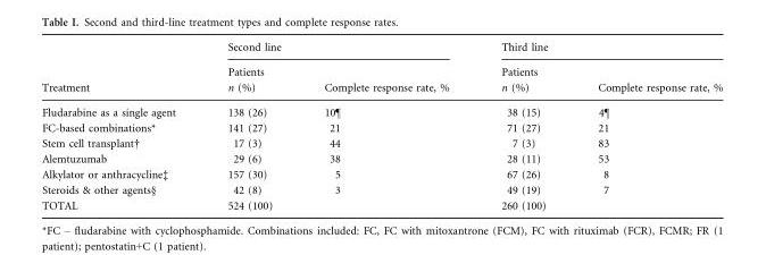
<table><thead><tr><td rowspan="2">Treatment</td><td colspan="2">Second line</td><td colspan="2">Third line</td></tr><tr><td>Patients n (%)</td><td>Complete response rate, %</td><td>Patients n (%)</td><td>Complete response rate, %</td></tr></thead><tbody><tr><td>Fludarabine as a single agent</td><td>138 (26)</td><td>10¶</td><td>38 (15)</td><td>4¶</td></tr><tr><td>FC-based combinations*</td><td>141 (27)</td><td>21</td><td>71 (27)</td><td>21</td></tr><tr><td>Stem cell transplant†</td><td>17 (3)</td><td>44</td><td>7 (3)</td><td>83</td></tr><tr><td>Alemtuzumab</td><td>29 (6)</td><td>38</td><td>28 (11)</td><td>53</td></tr><tr><td>Alkylator or anthracycline‡</td><td>157 (30)</td><td>5</td><td>67 (26)</td><td>8</td></tr><tr><td>Steroids &amp; other agents§</td><td>42 (8)</td><td>3</td><td>49 (19)</td><td>7</td></tr><tr><td>TOTAL</td><td>524 (100)</td><td></td><td>260 (100)</td><td></td></tr></tbody></table>